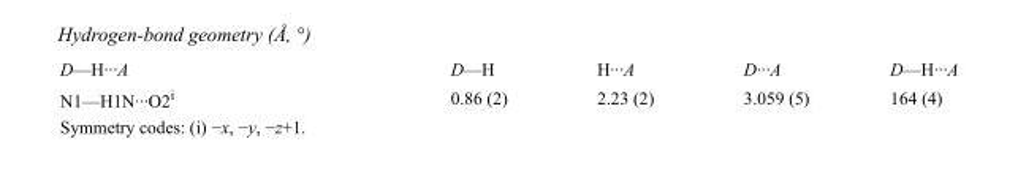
<table><tbody><tr><td>D—H···A</td><td>D—H</td><td>H···A</td><td>D···A</td><td>D—H···A</td></tr><tr><td>N1—H1N···O2<sup>i</sup></td><td>0.86 (2)</td><td>2.23 (2)</td><td>3.059 (5)</td><td>164 (4)</td></tr></tbody></table>